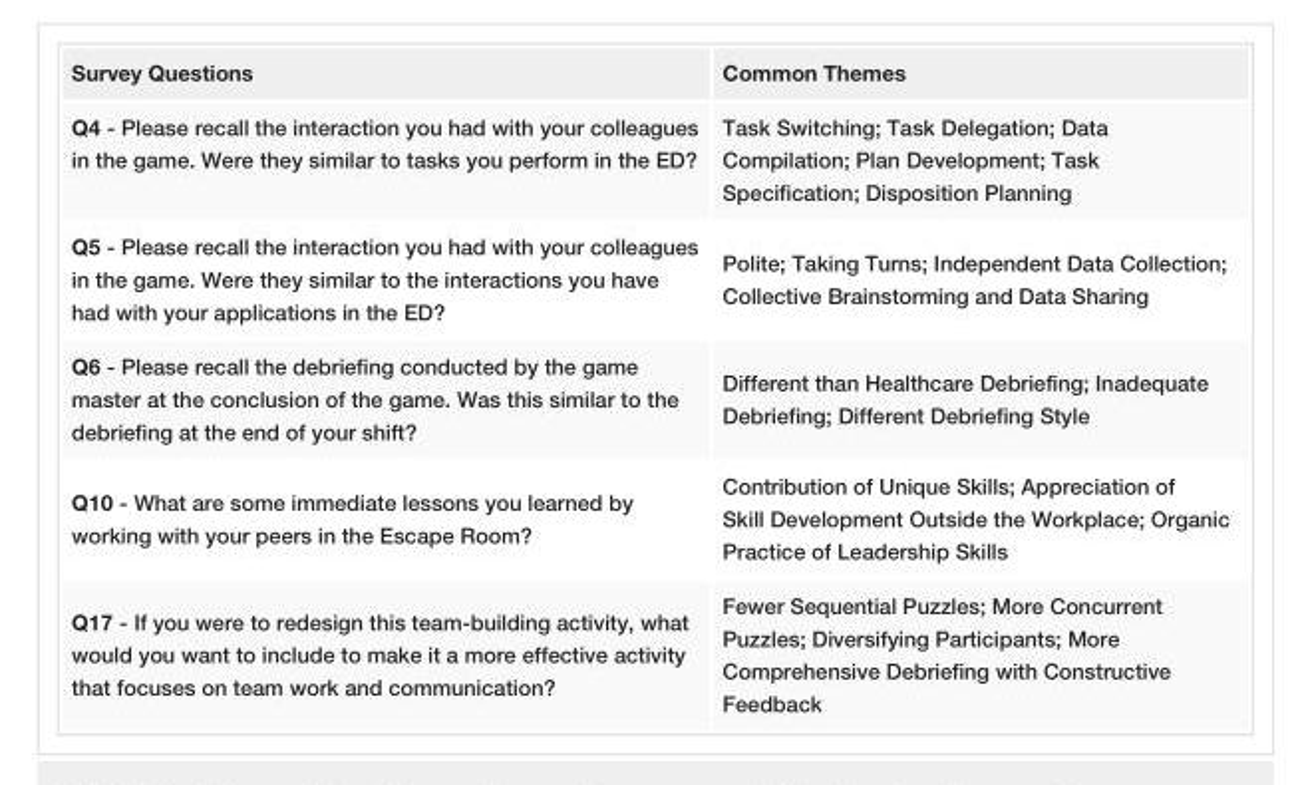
<table><tbody><tr><td>Survey Questions</td><td>Common Themes</td></tr><tr><td>Q4 - Please recall the interaction you had with your colleagues in the game. Were they similar to tasks you perform in the ED?</td><td>Task Switching; Task Delegation; Data Compilation; Plan Development; Task Specification; Disposition Planning</td></tr><tr><td>Q5 - Please recall the interaction you had with your colleagues in the game. Were they similar to the interactions you have had with your applications in the ED?</td><td>Polite; Taking Turns; Independent Data Collection; Collective Brainstorming and Data Sharing</td></tr><tr><td>Q6 - Please recall the debriefing conducted by the game master at the conclusion of the game. Was this similar to the debriefing at the end of your shift?</td><td>Different than Healthcare Debriefing; Inadequate Debriefing; Different Debriefing Style</td></tr><tr><td>Q10 - What are some immediate lessons you learned by working with your peers in the Escape Room?</td><td>Contribution of Unique Skills; Appreciation of Skill Development Outside the Workplace; Organic Practice of Leadership Skills</td></tr><tr><td>Q17 - If you were to redesign this team-building activity, what would you want to include to make it a more effective activity that focuses on team work and communication?</td><td>Fewer Sequential Puzzles; More Concurrent Puzzles; Diversifying Participants; More Comprehensive Debriefing with Constructive Feedback</td></tr></tbody></table>